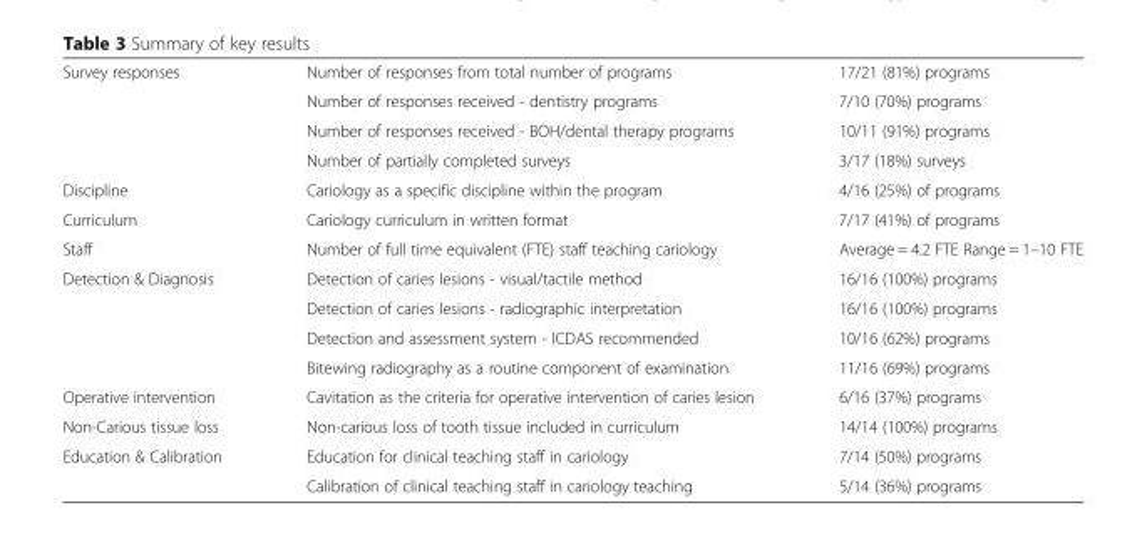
<table><tbody><tr><td rowspan="4">Survey responses</td><td>Number of responses from total number of programs</td><td>17/21 (81%) programs</td></tr><tr><td>Number of responses received - dentistry programs</td><td>7/10 (70%) programs</td></tr><tr><td>Number of responses received - BOH/dental therapy programs</td><td>10/11 (91%) programs</td></tr><tr><td>Number of partially completed surveys</td><td>3/17 (18%) surveys</td></tr><tr><td>Discipline</td><td>Cariology as a specific discipline within the program</td><td>4/16 (25%) of programs</td></tr><tr><td>Curriculum</td><td>Cariology curriculum in written format</td><td>7/17 (41%) of programs</td></tr><tr><td>Staff</td><td>Number of full time equivalent (FTE) staff teaching cariology</td><td>Average = 4.2 FTE Range = 1–10 FTE</td></tr><tr><td rowspan="4">Detection &amp; Diagnosis</td><td>Detection of caries lesions - visual/tactile method</td><td>16/16 (100%) programs</td></tr><tr><td>Detection of caries lesions - radiographic interpretation</td><td>16/16 (100%) programs</td></tr><tr><td>Detection and assessment system - ICDAS recommended</td><td>10/16 (62%) programs</td></tr><tr><td>Bitewing radiography as a routine component of examination</td><td>11/16 (69%) programs</td></tr><tr><td>Operative intervention</td><td>Cavitation as the criteria for operative intervention of caries lesion</td><td>6/16 (37%) programs</td></tr><tr><td>Non-Carious tissue loss</td><td>Non-carious loss of tooth tissue included in curriculum</td><td>14/14 (100%) programs</td></tr><tr><td rowspan="2">Education &amp; Calibration</td><td>Education for clinical teaching staff in cariology</td><td>7/14 (50%) programs</td></tr><tr><td>Calibration of clinical teaching staff in cariology teaching</td><td>5/14 (36%) programs</td></tr></tbody></table>